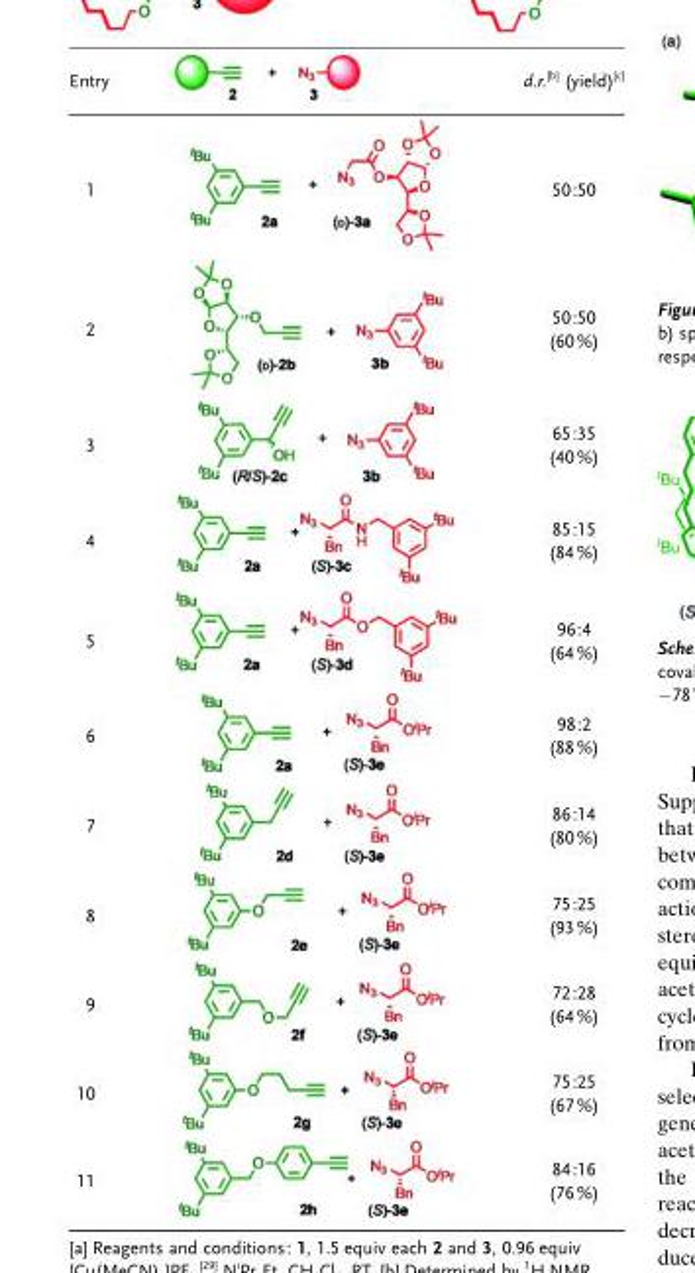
<table><thead><tr><td>Entry</td><td>d.r.<sup>[b]</sup> (yield)<sup>[c]</sup></td></tr></thead><tbody><tr><td>1</td><td>50:50</td></tr><tr><td>2</td><td>50:50 (60%)</td></tr><tr><td>3</td><td>65:35 (40%)</td></tr><tr><td>4</td><td>85:15 (84%)</td></tr><tr><td>5</td><td>96:4 (64%)</td></tr><tr><td>6</td><td>98:2 (88%)</td></tr><tr><td>7</td><td>86:14 (80%)</td></tr><tr><td>8</td><td>75:25 (93%)</td></tr><tr><td>9</td><td>72:28 (64%)</td></tr><tr><td>10</td><td>75:25 (67%)</td></tr><tr><td>11</td><td>84:16 (76%)</td></tr></tbody></table>